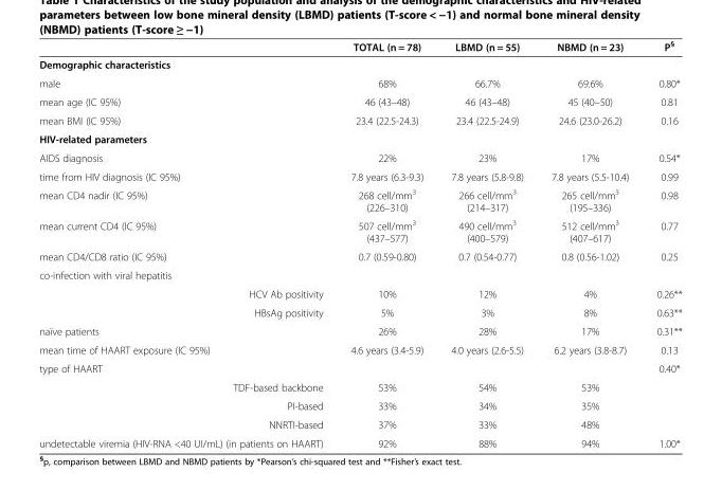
<table><thead><tr><td></td><td>TOTAL (n = 78)</td><td>LBMD (n = 55)</td><td>NBMD (n = 23)</td><td>P<sup>§</sup></td></tr></thead><tbody><tr><td colspan="5">Demographic characteristics</td></tr><tr><td>male</td><td>68%</td><td>66.7%</td><td>69.6%</td><td>0.80*</td></tr><tr><td>mean age (IC 95%)</td><td>46 (43–48)</td><td>46 (43–48)</td><td>45 (40–50)</td><td>0.81</td></tr><tr><td>mean BMI (IC 95%)</td><td>23.4 (22.5-24.3)</td><td>23.4 (22.5-24.9)</td><td>24.6 (23.0-26.2)</td><td>0.16</td></tr><tr><td colspan="5">HIV-related parameters</td></tr><tr><td>AIDS diagnosis</td><td>22%</td><td>23%</td><td>17%</td><td>0.54*</td></tr><tr><td>time from HIV diagnosis (IC 95%)</td><td>7.8 years (6.3-9.3)</td><td>7.8 years (5.8-9.8)</td><td>7.8 years (5.5-10.4)</td><td>0.99</td></tr><tr><td>mean CD4 nadir (IC 95%)</td><td>268 cell/mm<sup>3</sup> (226–310)</td><td>266 cell/mm<sup>3</sup> (214–317)</td><td>265 cell/mm<sup>3</sup> (195–336)</td><td>0.98</td></tr><tr><td>mean current CD4 (IC 95%)</td><td>507 cell/mm<sup>3</sup> (437–577)</td><td>490 cell/mm<sup>3</sup> (400–579)</td><td>512 cell/mm<sup>3</sup> (407–617)</td><td>0.77</td></tr><tr><td>mean CD4/CD8 ratio (IC 95%)</td><td>0.7 (0.59-0.80)</td><td>0.7 (0.54-0.77)</td><td>0.8 (0.56-1.02)</td><td>0.25</td></tr><tr><td colspan="5">co-infection with viral hepatitis</td></tr><tr><td>HCV Ab positivity</td><td>10%</td><td>12%</td><td>4%</td><td>0.26**</td></tr><tr><td>HBsAg positivity</td><td>5%</td><td>3%</td><td>8%</td><td>0.63**</td></tr><tr><td>naïve patients</td><td>26%</td><td>28%</td><td>17%</td><td>0.31**</td></tr><tr><td>mean time of HAART exposure (IC 95%)</td><td>4.6 years (3.4-5.9)</td><td>4.0 years (2.6-5.5)</td><td>6.2 years (3.8-8.7)</td><td>0.13</td></tr><tr><td>type of HAART</td><td></td><td></td><td></td><td>0.40*</td></tr><tr><td>TDF-based backbone</td><td>53%</td><td>54%</td><td>53%</td><td></td></tr><tr><td>PI-based</td><td>33%</td><td>34%</td><td>35%</td><td></td></tr><tr><td>NNRTI-based</td><td>37%</td><td>33%</td><td>48%</td><td></td></tr><tr><td>undetectable viremia (HIV-RNA &lt;40 UI/mL) (in patients on HAART)</td><td>92%</td><td>88%</td><td>94%</td><td>1.00*</td></tr></tbody></table>